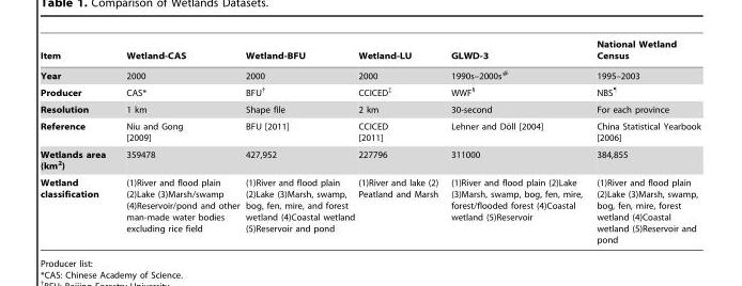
<table><thead><tr><td>Item</td><td>Wetland-CAS</td><td>Wetland-BFU</td><td>Wetland-LU</td><td>GLWD-3</td><td>National Wetland Census</td></tr></thead><tbody><tr><td>Year</td><td>2000</td><td>2000</td><td>2000</td><td>1990s–2000s#</td><td>1995–2003</td></tr><tr><td>Producer</td><td>CAS*</td><td>BFU†</td><td>CCICED‡</td><td>WWF§</td><td>NBS¶</td></tr><tr><td>Resolution</td><td>1 km</td><td>Shape file</td><td>2 km</td><td>30-second</td><td>For each province</td></tr><tr><td>Reference</td><td>Niu and Gong [2009]</td><td>BFU [2011]</td><td>CCICED [2011]</td><td>Lehner and Do¨ll [2004]</td><td>China Statistical Yearbook [2006]</td></tr><tr><td>Wetlands area (km<sup>2</sup>)</td><td>359478</td><td>427,952</td><td>227796</td><td>311000</td><td>384,855</td></tr><tr><td>Wetland classification</td><td>(1)River and flood plain (2)Lake (3)Marsh/swamp (4)Reservoir/pond and other man-made water bodies excluding rice field</td><td>(1)River and flood plain (2)Lake (3)Marsh, swamp, bog, fen, mire, and forest wetland (4)Coastal wetland (5)Reservoir and pond</td><td>(1)River and lake (2) Peatland and Marsh</td><td>(1)River and flood plain (2)Lake (3)Marsh, swamp, bog, fen, mire, forest/flooded forest (4)Coastal wetland (5)Reservoir</td><td>(1)River and flood plain (2)Lake (3)Marsh, swamp, bog, fen, mire, forest wetland (4)Coastal wetland (5)Reservoir and pond</td></tr></tbody></table>